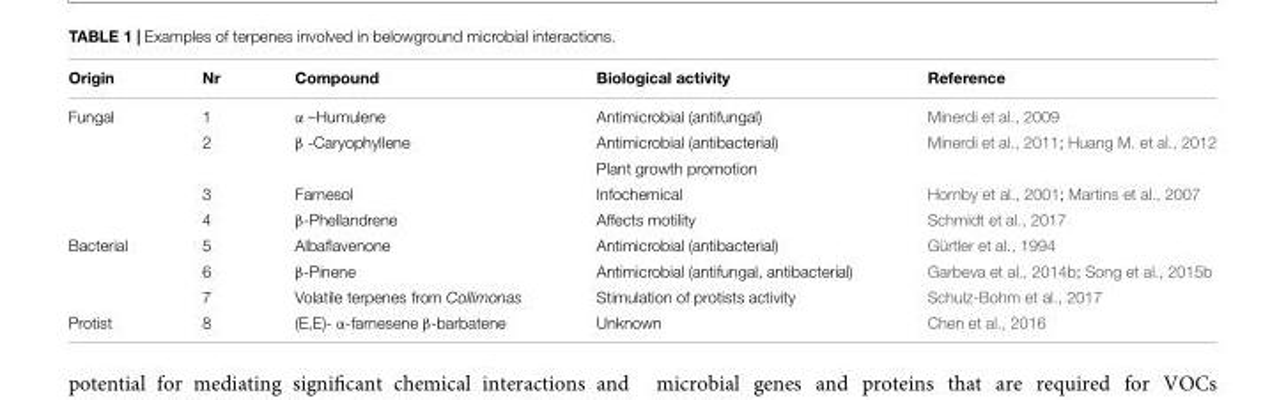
<table><thead><tr><td>Origin</td><td>Nr</td><td>Compound</td><td>Biological activity</td><td>Reference</td></tr></thead><tbody><tr><td rowspan="5">Fungal</td><td>1</td><td>α –Humulene</td><td>Antimicrobial (antifungal)</td><td>Minerdi et al., 2009</td></tr><tr><td>2</td><td>β -Caryophyllene</td><td>Antimicrobial (antibacterial)</td><td>Minerdi et al., 2011; Huang M. et al., 2012</td></tr><tr><td></td><td></td><td>Plant growth promotion</td><td></td></tr><tr><td>3</td><td>Farnesol</td><td>Infochemical</td><td>Hornby et al., 2001; Martins et al., 2007</td></tr><tr><td>4</td><td>β-Phellandrene</td><td>Affects motility</td><td>Schmidt et al., 2017</td></tr><tr><td rowspan="3">Bacterial</td><td>5</td><td>Albaflavenone</td><td>Antimicrobial (antibacterial)</td><td>Gürtler et al., 1994</td></tr><tr><td>6</td><td>β-Pinene</td><td>Antimicrobial (antifungal, antibacterial)</td><td>Garbeva et al., 2014b; Song et al., 2015b</td></tr><tr><td>7</td><td>Volatile terpenes from Collimonas</td><td>Stimulation of protists activity</td><td>Schulz-Bohm et al., 2017</td></tr><tr><td>Protist</td><td>8</td><td>(E,E)- α-farnesene β-barbatene</td><td>Unknown</td><td>Chen et al., 2016</td></tr></tbody></table>